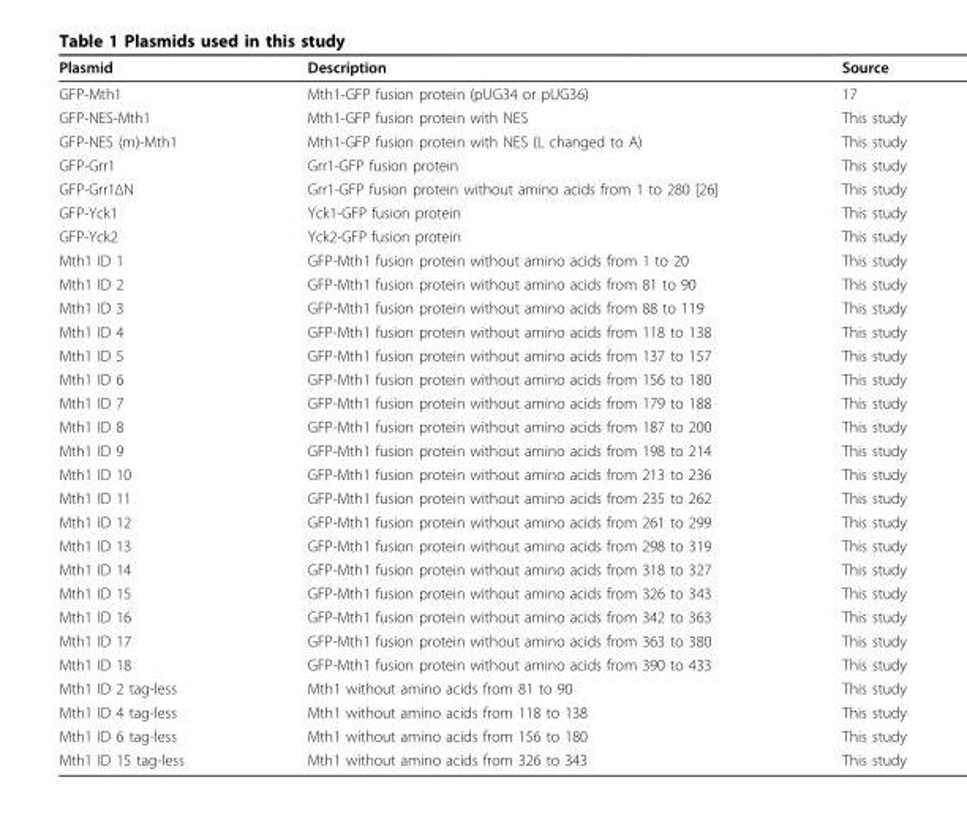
<table><thead><tr><td>Plasmid</td><td>Description</td><td>Source</td></tr></thead><tbody><tr><td>GFP-Mth1</td><td>Mth1-GFP fusion protein (pUG34 or pUG36)</td><td>17</td></tr><tr><td>GFP-NES-Mth1</td><td>Mth1-GFP fusion protein with NES</td><td>This study</td></tr><tr><td>GFP-NES (m)-Mth1</td><td>Mth1-GFP fusion protein with NES (L changed to A)</td><td>This study</td></tr><tr><td>GFP-Grr1</td><td>Grr1-GFP fusion protein</td><td>This study</td></tr><tr><td>GFP-Grr1ΔN</td><td>Grr1-GFP fusion protein without amino acids from 1 to 280 [26]</td><td>This study</td></tr><tr><td>GFP-Yck1</td><td>Yck1-GFP fusion protein</td><td>This study</td></tr><tr><td>GFP-Yck2</td><td>Yck2-GFP fusion protein</td><td>This study</td></tr><tr><td>Mth1 ID 1</td><td>GFP-Mth1 fusion protein without amino acids from 1 to 20</td><td>This study</td></tr><tr><td>Mth1 ID 2</td><td>GFP-Mth1 fusion protein without amino acids from 81 to 90</td><td>This study</td></tr><tr><td>Mth1 ID 3</td><td>GFP-Mth1 fusion protein without amino acids from 88 to 119</td><td>This study</td></tr><tr><td>Mth1 ID 4</td><td>GFP-Mth1 fusion protein without amino acids from 118 to 138</td><td>This study</td></tr><tr><td>Mth1 ID 5</td><td>GFP-Mth1 fusion protein without amino acids from 137 to 157</td><td>This study</td></tr><tr><td>Mth1 ID 6</td><td>GFP-Mth1 fusion protein without amino acids from 156 to 180</td><td>This study</td></tr><tr><td>Mth1 ID 7</td><td>GFP-Mth1 fusion protein without amino acids from 179 to 188</td><td>This study</td></tr><tr><td>Mth1 ID 8</td><td>GFP-Mth1 fusion protein without amino acids from 187 to 200</td><td>This study</td></tr><tr><td>Mth1 ID 9</td><td>GFP-Mth1 fusion protein without amino acids from 198 to 214</td><td>This study</td></tr><tr><td>Mth1 ID 10</td><td>GFP-Mth1 fusion protein without amino acids from 213 to 236</td><td>This study</td></tr><tr><td>Mth1 ID 11</td><td>GFP-Mth1 fusion protein without amino acids from 235 to 262</td><td>This study</td></tr><tr><td>Mth1 ID 12</td><td>GFP-Mth1 fusion protein without amino acids from 261 to 299</td><td>This study</td></tr><tr><td>Mth1 ID 13</td><td>GFP-Mth1 fusion protein without amino acids from 298 to 319</td><td>This study</td></tr><tr><td>Mth1 ID 14</td><td>GFP-Mth1 fusion protein without amino acids from 318 to 327</td><td>This study</td></tr><tr><td>Mth1 ID 15</td><td>GFP-Mth1 fusion protein without amino acids from 326 to 343</td><td>This study</td></tr><tr><td>Mth1 ID 16</td><td>GFP-Mth1 fusion protein without amino acids from 342 to 363</td><td>This study</td></tr><tr><td>Mth1 ID 17</td><td>GFP-Mth1 fusion protein without amino acids from 363 to 380</td><td>This study</td></tr><tr><td>Mth1 ID 18</td><td>GFP-Mth1 fusion protein without amino acids from 390 to 433</td><td>This study</td></tr><tr><td>Mth1 ID 2 tag-less</td><td>Mth1 without amino acids from 81 to 90</td><td>This study</td></tr><tr><td>Mth1 ID 4 tag-less</td><td>Mth1 without amino acids from 118 to 138</td><td>This study</td></tr><tr><td>Mth1 ID 6 tag-less</td><td>Mth1 without amino acids from 156 to 180</td><td>This study</td></tr><tr><td>Mth1 ID 15 tag-less</td><td>Mth1 without amino acids from 326 to 343</td><td>This study</td></tr></tbody></table>